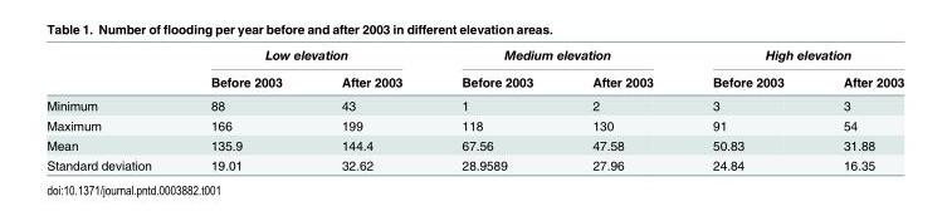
<table><thead><tr><td rowspan="2"></td><td colspan="2">Low elevation</td><td colspan="2">Medium elevation</td><td colspan="2">High elevation</td></tr><tr><td>Before 2003</td><td>After 2003</td><td>Before 2003</td><td>After 2003</td><td>Before 2003</td><td>After 2003</td></tr></thead><tbody><tr><td>Minimum</td><td>88</td><td>43</td><td>1</td><td>2</td><td>3</td><td>3</td></tr><tr><td>Maximum</td><td>166</td><td>199</td><td>118</td><td>130</td><td>91</td><td>54</td></tr><tr><td>Mean</td><td>135.9</td><td>144.4</td><td>67.56</td><td>47.58</td><td>50.83</td><td>31.88</td></tr><tr><td>Standard deviation</td><td>19.01</td><td>32.62</td><td>28.9589</td><td>27.96</td><td>24.84</td><td>16.35</td></tr></tbody></table>